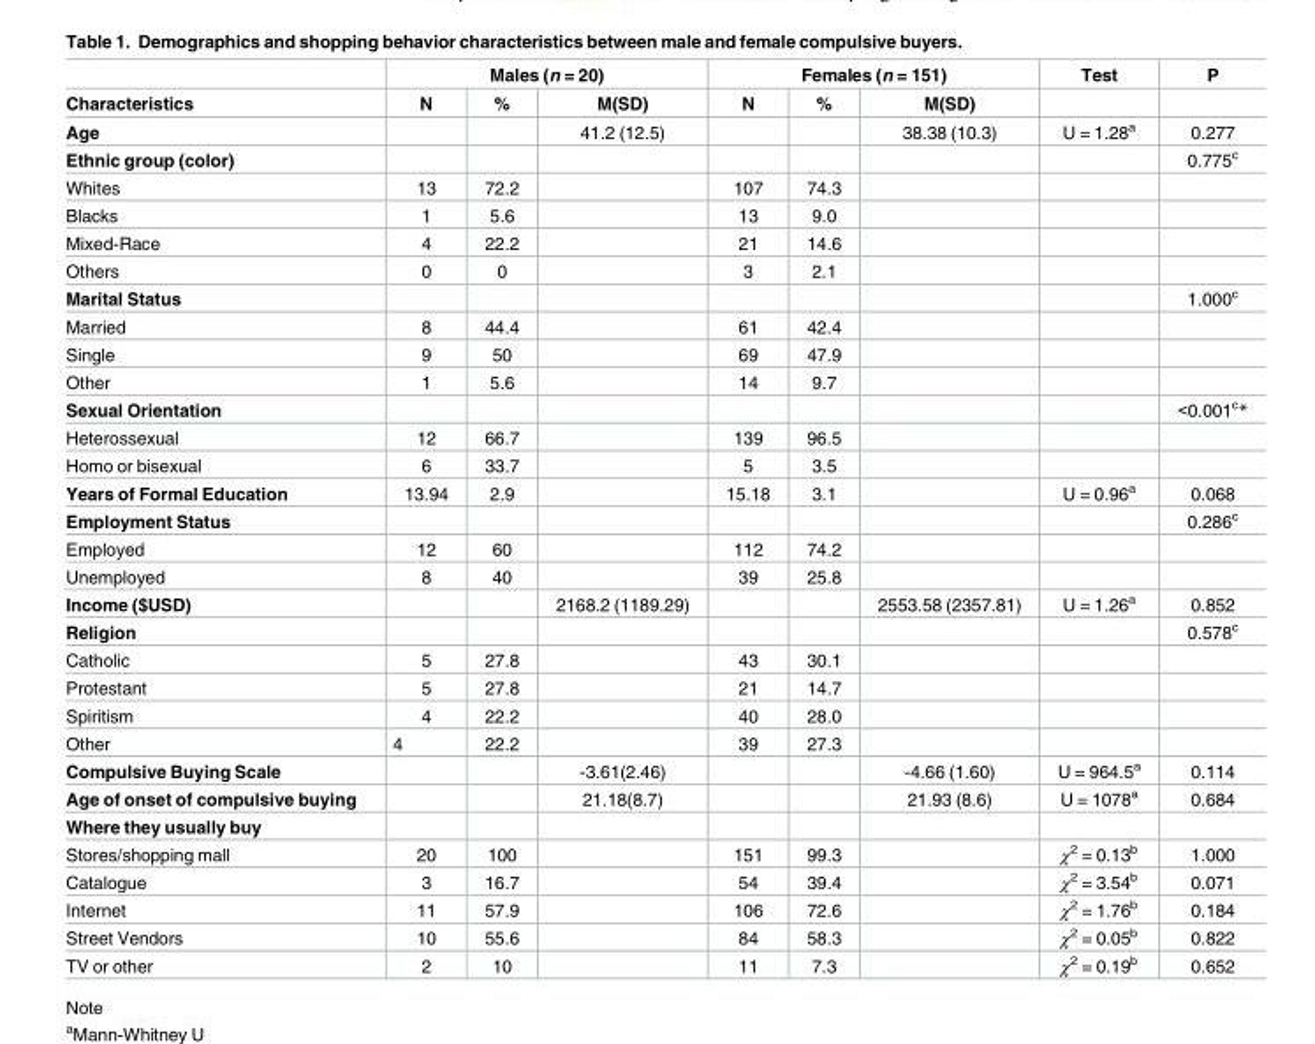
<table><thead><tr><td rowspan="2">Characteristics</td><td colspan="3">Males (n = 20)</td><td colspan="3">Females (n = 151)</td><td rowspan="2">Test</td><td rowspan="2">P</td></tr><tr><td>N</td><td>%</td><td>M(SD)</td><td>N</td><td>%</td><td>M(SD)</td></tr></thead><tbody><tr><td>Age</td><td></td><td></td><td>41.2 (12.5)</td><td></td><td></td><td>38.38 (10.3)</td><td>U = 1.28<sup>a</sup></td><td>0.277</td></tr><tr><td>Ethnic group (color)</td><td></td><td></td><td></td><td></td><td></td><td></td><td></td><td>0.775<sup>c</sup></td></tr><tr><td>Whites</td><td>13</td><td>72.2</td><td></td><td>107</td><td>74.3</td><td></td><td></td><td></td></tr><tr><td>Blacks</td><td>1</td><td>5.6</td><td></td><td>13</td><td>9.0</td><td></td><td></td><td></td></tr><tr><td>Mixed-Race</td><td>4</td><td>22.2</td><td></td><td>21</td><td>14.6</td><td></td><td></td><td></td></tr><tr><td>Others</td><td>0</td><td>0</td><td></td><td>3</td><td>2.1</td><td></td><td></td><td></td></tr><tr><td>Marital Status</td><td></td><td></td><td></td><td></td><td></td><td></td><td></td><td>1.000<sup>c</sup></td></tr><tr><td>Married</td><td>8</td><td>44.4</td><td></td><td>61</td><td>42.4</td><td></td><td></td><td></td></tr><tr><td>Single</td><td>9</td><td>50</td><td></td><td>69</td><td>47.9</td><td></td><td></td><td></td></tr><tr><td>Other</td><td>1</td><td>5.6</td><td></td><td>14</td><td>9.7</td><td></td><td></td><td></td></tr><tr><td>Sexual Orientation</td><td></td><td></td><td></td><td></td><td></td><td></td><td></td><td>&lt;0.001<sup>c</sup>*</td></tr><tr><td>Heterossexual</td><td>12</td><td>66.7</td><td></td><td>139</td><td>96.5</td><td></td><td></td><td></td></tr><tr><td>Homo or bisexual</td><td>6</td><td>33.7</td><td></td><td>5</td><td>3.5</td><td></td><td></td><td></td></tr><tr><td>Years of Formal Education</td><td>13.94</td><td>2.9</td><td></td><td>15.18</td><td>3.1</td><td></td><td>U = 0.96<sup>a</sup></td><td>0.068</td></tr><tr><td>Employment Status</td><td></td><td></td><td></td><td></td><td></td><td></td><td></td><td>0.286<sup>c</sup></td></tr><tr><td>Employed</td><td>12</td><td>60</td><td></td><td>112</td><td>74.2</td><td></td><td></td><td></td></tr><tr><td>Unemployed</td><td>8</td><td>40</td><td></td><td>39</td><td>25.8</td><td></td><td></td><td></td></tr><tr><td>Income ($USD)</td><td></td><td></td><td>2168.2 (1189.29)</td><td></td><td></td><td>2553.58 (2357.81)</td><td>U = 1.26<sup>a</sup></td><td>0.852</td></tr><tr><td>Religion</td><td></td><td></td><td></td><td></td><td></td><td></td><td></td><td>0.578<sup>c</sup></td></tr><tr><td>Catholic</td><td>5</td><td>27.8</td><td></td><td>43</td><td>30.1</td><td></td><td></td><td></td></tr><tr><td>Protestant</td><td>5</td><td>27.8</td><td></td><td>21</td><td>14.7</td><td></td><td></td><td></td></tr><tr><td>Spiritism</td><td>4</td><td>22.2</td><td></td><td>40</td><td>28.0</td><td></td><td></td><td></td></tr><tr><td>Other</td><td>4</td><td>22.2</td><td></td><td>39</td><td>27.3</td><td></td><td></td><td></td></tr><tr><td>Compulsive Buying Scale</td><td></td><td></td><td>-3.61(2.46)</td><td></td><td></td><td>-4.66 (1.60)</td><td>U = 964.5<sup>a</sup></td><td>0.114</td></tr><tr><td>Age of onset of compulsive buying</td><td></td><td></td><td>21.18(8.7)</td><td></td><td></td><td>21.93 (8.6)</td><td>U = 1078<sup>a</sup></td><td>0.684</td></tr><tr><td colspan="9">Where they usually buy</td></tr><tr><td>Stores/shopping mall</td><td>20</td><td>100</td><td></td><td>151</td><td>99.3</td><td></td><td>χ<sup>2</sup> = 0.13<sup>b</sup></td><td>1.000</td></tr><tr><td>Catalogue</td><td>3</td><td>16.7</td><td></td><td>54</td><td>39.4</td><td></td><td>χ<sup>2</sup> = 3.54<sup>b</sup></td><td>0.071</td></tr><tr><td>Internet</td><td>11</td><td>57.9</td><td></td><td>106</td><td>72.6</td><td></td><td>χ<sup>2</sup> = 1.76<sup>b</sup></td><td>0.184</td></tr><tr><td>Street Vendors</td><td>10</td><td>55.6</td><td></td><td>84</td><td>58.3</td><td></td><td>χ<sup>2</sup> = 0.05<sup>b</sup></td><td>0.822</td></tr><tr><td>TV or other</td><td>2</td><td>10</td><td></td><td>11</td><td>7.3</td><td></td><td>χ<sup>2</sup> = 0.19<sup>b</sup></td><td>0.652</td></tr></tbody></table>